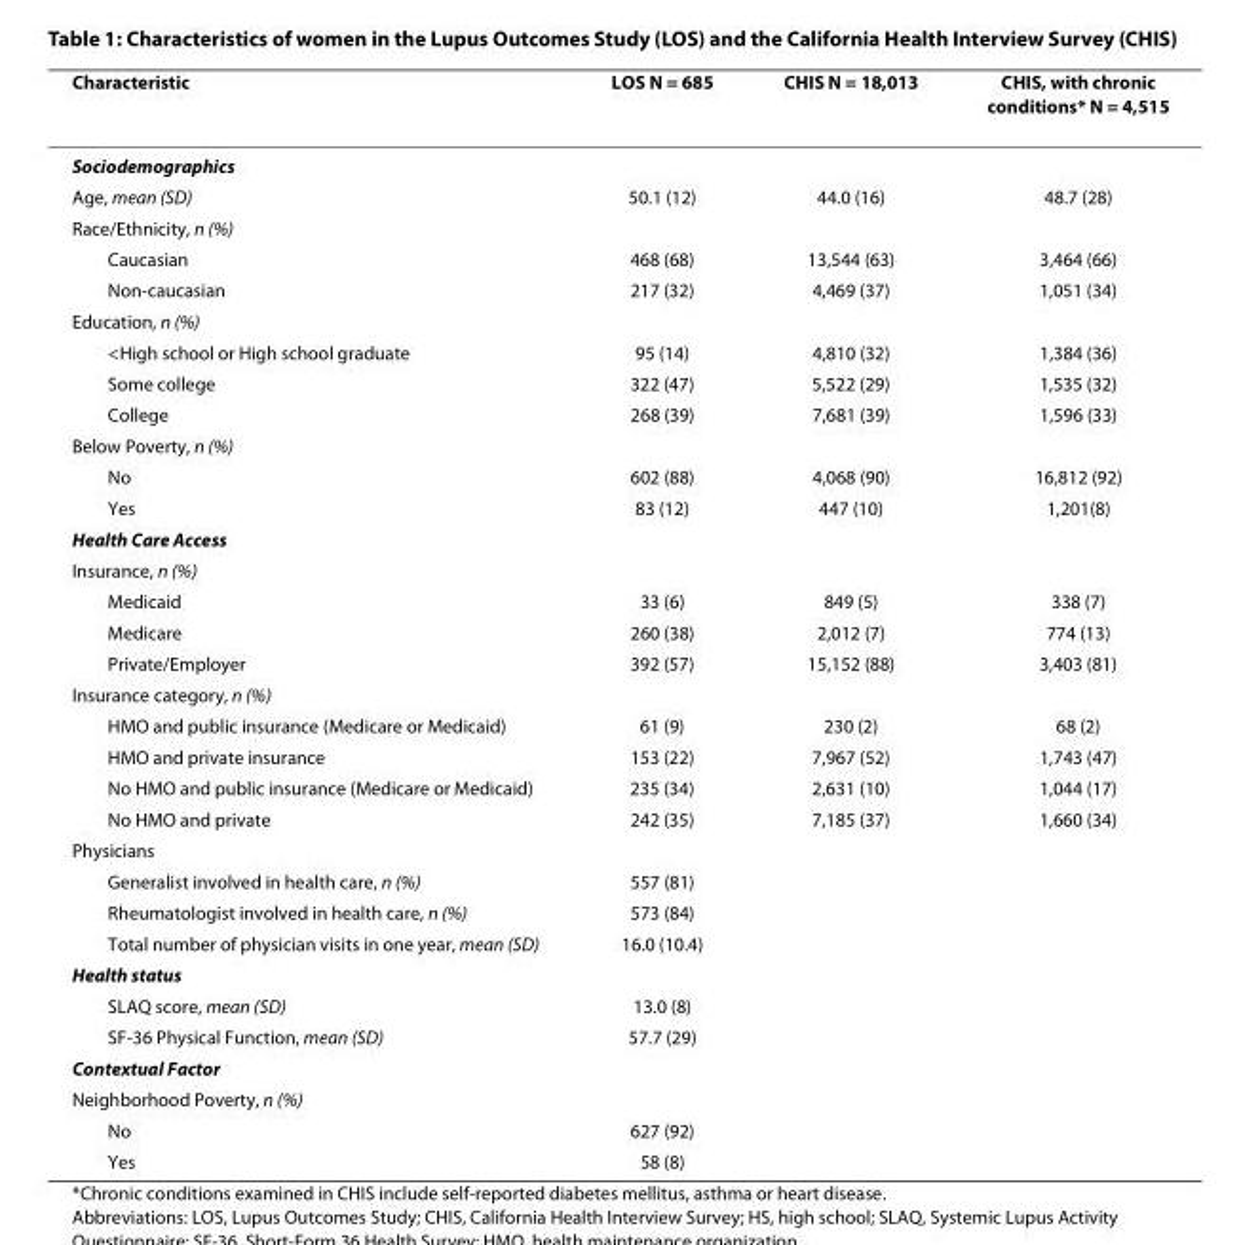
<table><thead><tr><td>Characteristic</td><td>LOS N = 685</td><td>CHIS N = 18,013</td><td>CHIS, with chronic conditions* N = 4,515</td></tr></thead><tbody><tr><td colspan="4">Sociodemographics</td></tr><tr><td>Age, mean (SD)</td><td>50.1 (12)</td><td>44.0 (16)</td><td>48.7 (28)</td></tr><tr><td colspan="4">Race/Ethnicity, n (%)</td></tr><tr><td>Caucasian</td><td>468 (68)</td><td>13,544 (63)</td><td>3,464 (66)</td></tr><tr><td>Non-caucasian</td><td>217 (32)</td><td>4,469 (37)</td><td>1,051 (34)</td></tr><tr><td colspan="4">Education, n (%)</td></tr><tr><td>&lt;High school or High school graduate</td><td>95 (14)</td><td>4,810 (32)</td><td>1,384 (36)</td></tr><tr><td>Some college</td><td>322 (47)</td><td>5,522 (29)</td><td>1,535 (32)</td></tr><tr><td>College</td><td>268 (39)</td><td>7,681 (39)</td><td>1,596 (33)</td></tr><tr><td colspan="4">Below Poverty, n (%)</td></tr><tr><td>No</td><td>602 (88)</td><td>4,068 (90)</td><td>16,812 (92)</td></tr><tr><td>Yes</td><td>83 (12)</td><td>447 (10)</td><td>1,201(8)</td></tr><tr><td colspan="4">Health Care Access</td></tr><tr><td colspan="4">Insurance, n (%)</td></tr><tr><td>Medicaid</td><td>33 (6)</td><td>849 (5)</td><td>338 (7)</td></tr><tr><td>Medicare</td><td>260 (38)</td><td>2,012 (7)</td><td>774 (13)</td></tr><tr><td>Private/Employer</td><td>392 (57)</td><td>15,152 (88)</td><td>3,403 (81)</td></tr><tr><td colspan="4">Insurance category, n (%)</td></tr><tr><td>HMO and public insurance (Medicare or Medicaid)</td><td>61 (9)</td><td>230 (2)</td><td>68 (2)</td></tr><tr><td>HMO and private insurance</td><td>153 (22)</td><td>7,967 (52)</td><td>1,743 (47)</td></tr><tr><td>No HMO and public insurance (Medicare or Medicaid)</td><td>235 (34)</td><td>2,631 (10)</td><td>1,044 (17)</td></tr><tr><td>No HMO and private</td><td>242 (35)</td><td>7,185 (37)</td><td>1,660 (34)</td></tr><tr><td colspan="4">Physicians</td></tr><tr><td>Generalist involved in health care, n (%)</td><td>557 (81)</td><td></td><td></td></tr><tr><td>Rheumatologist involved in health care, n (%)</td><td>573 (84)</td><td></td><td></td></tr><tr><td>Total number of physician visits in one year, mean (SD)</td><td>16.0 (10.4)</td><td></td><td></td></tr><tr><td colspan="4">Health status</td></tr><tr><td>SLAQ score, mean (SD)</td><td>13.0 (8)</td><td></td><td></td></tr><tr><td>SF-36 Physical Function, mean (SD)</td><td>57.7 (29)</td><td></td><td></td></tr><tr><td colspan="4">Contextual Factor</td></tr><tr><td colspan="4">Neighborhood Poverty, n (%)</td></tr><tr><td>No</td><td>627 (92)</td><td></td><td></td></tr><tr><td>Yes</td><td>58 (8)</td><td></td><td></td></tr></tbody></table>